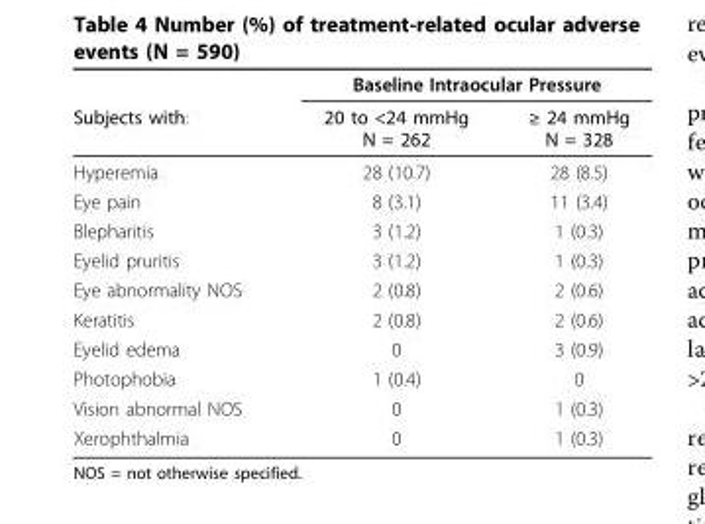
<table><thead><tr><td rowspan="2">Subjects with:</td><td colspan="2">Baseline Intraocular Pressure</td></tr><tr><td>20 to &lt;24 mmHg N = 262</td><td>≥ 24 mmHg N = 328</td></tr></thead><tbody><tr><td>Hyperemia</td><td>28 (10.7)</td><td>28 (8.5)</td></tr><tr><td>Eye pain</td><td>8 (3.1)</td><td>11 (3.4)</td></tr><tr><td>Blepharitis</td><td>3 (1.2)</td><td>1 (0.3)</td></tr><tr><td>Eyelid pruritis</td><td>3 (1.2)</td><td>1 (0.3)</td></tr><tr><td>Eye abnormality NOS</td><td>2 (0.8)</td><td>2 (0.6)</td></tr><tr><td>Keratitis</td><td>2 (0.8)</td><td>2 (0.6)</td></tr><tr><td>Eyelid edema</td><td>0</td><td>3 (0.9)</td></tr><tr><td>Photophobia</td><td>1 (0.4)</td><td>0</td></tr><tr><td>Vision abnormal NOS</td><td>0</td><td>1 (0.3)</td></tr><tr><td>Xerophthalmia</td><td>0</td><td>1 (0.3)</td></tr></tbody></table>